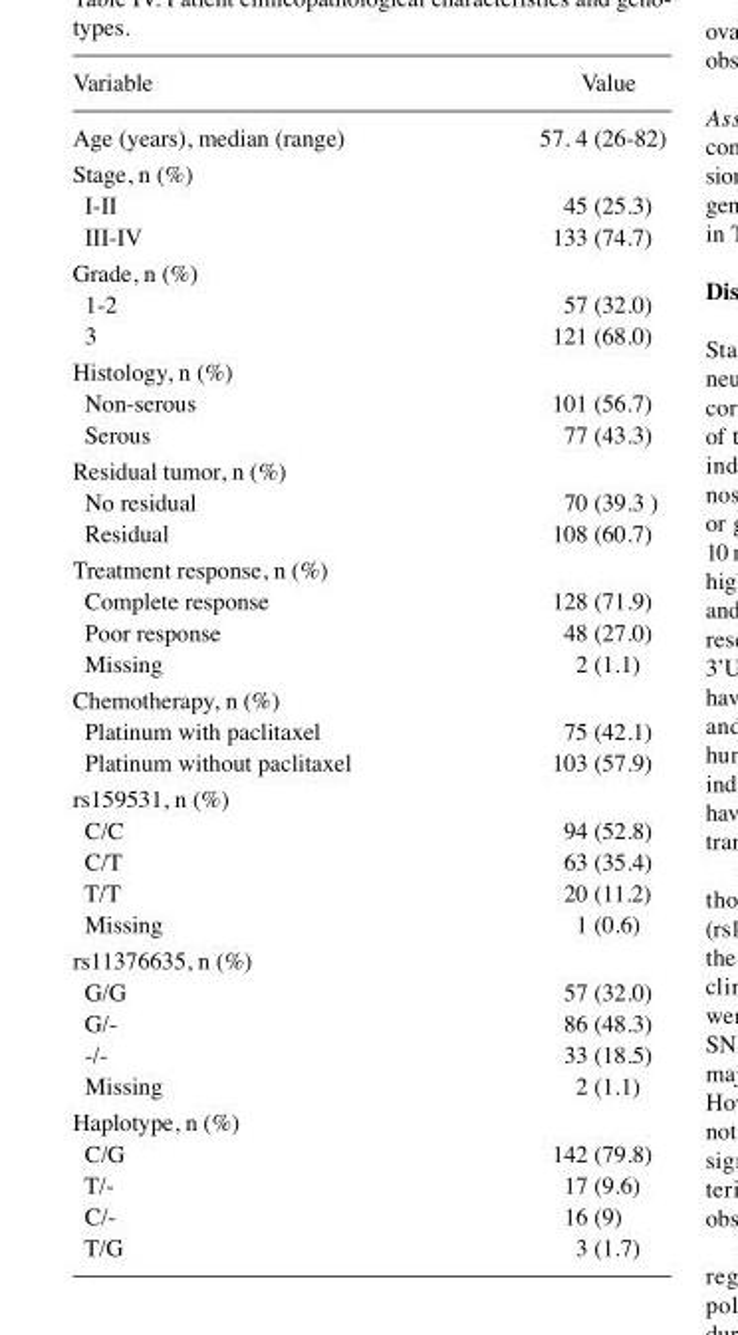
<table><thead><tr><td>Variable</td><td>Value</td></tr></thead><tbody><tr><td>Age (years), median (range)</td><td>57. 4 (26-82)</td></tr><tr><td colspan="2">Stage, n (%)</td></tr><tr><td>I-II</td><td>45 (25.3)</td></tr><tr><td>III-IV</td><td>133 (74.7)</td></tr><tr><td colspan="2">Grade, n (%)</td></tr><tr><td>1-2</td><td>57 (32.0)</td></tr><tr><td>3</td><td>121 (68.0)</td></tr><tr><td colspan="2">Histology, n (%)</td></tr><tr><td>Non-serous</td><td>101 (56.7)</td></tr><tr><td>Serous</td><td>77 (43.3)</td></tr><tr><td colspan="2">Residual tumor, n (%)</td></tr><tr><td>No residual</td><td>70 (39.3 )</td></tr><tr><td>Residual</td><td>108 (60.7)</td></tr><tr><td colspan="2">Treatment response, n (%)</td></tr><tr><td>Complete response</td><td>128 (71.9)</td></tr><tr><td>Poor response</td><td>48 (27.0)</td></tr><tr><td>Missing</td><td>2 (1.1)</td></tr><tr><td colspan="2">Chemotherapy, n (%)</td></tr><tr><td>Platinum with paclitaxel</td><td>75 (42.1)</td></tr><tr><td>Platinum without paclitaxel</td><td>103 (57.9)</td></tr><tr><td colspan="2">rs159531, n (%)</td></tr><tr><td>C/C</td><td>94 (52.8)</td></tr><tr><td>C/T</td><td>63 (35.4)</td></tr><tr><td>T/T</td><td>20 (11.2)</td></tr><tr><td>Missing</td><td>1 (0.6)</td></tr><tr><td colspan="2">rs11376635, n (%)</td></tr><tr><td>G/G</td><td>57 (32.0)</td></tr><tr><td>G/-</td><td>86 (48.3)</td></tr><tr><td>-/-</td><td>33 (18.5)</td></tr><tr><td>Missing</td><td>2 (1.1)</td></tr><tr><td colspan="2">Haplotype, n (%)</td></tr><tr><td>C/G</td><td>142 (79.8)</td></tr><tr><td>T/-</td><td>17 (9.6)</td></tr><tr><td>C/-</td><td>16 (9)</td></tr><tr><td>T/G</td><td>3 (1.7)</td></tr></tbody></table>